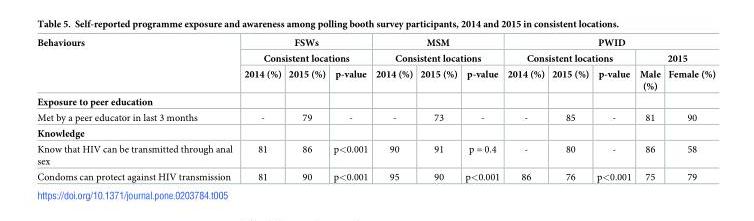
<table><thead><tr><td rowspan="3">Behaviours</td><td rowspan="2" colspan="3">FSWs Consistent locations</td><td rowspan="2" colspan="3">MSM Consistent locations</td><td colspan="5">PWID</td></tr><tr><td colspan="3">Consistent locations</td><td colspan="2">2015</td></tr><tr><td>2014 (%)</td><td>2015 (%)</td><td>p-value</td><td>2014 (%)</td><td>2015 (%)</td><td>p-value</td><td>2014 (%)</td><td>2015 (%)</td><td>p-value</td><td>Male (%)</td><td>Female (%)</td></tr></thead><tbody><tr><td colspan="12">Exposure to peer education</td></tr><tr><td>Met by a peer educator in last 3 months</td><td>-</td><td>79</td><td>-</td><td>-</td><td>73</td><td>-</td><td>-</td><td>85</td><td>-</td><td>81</td><td>90</td></tr><tr><td colspan="12">Knowledge</td></tr><tr><td>Know that HIV can be transmitted through anal sex</td><td>81</td><td>86</td><td>p&lt;0.001</td><td>90</td><td>91</td><td>p = 0.4</td><td>-</td><td>80</td><td>-</td><td>86</td><td>58</td></tr><tr><td>Condoms can protect against HIV transmission</td><td>81</td><td>90</td><td>p&lt;0.001</td><td>95</td><td>90</td><td>p&lt;0.001</td><td>86</td><td>76</td><td>p&lt;0.001</td><td>75</td><td>79</td></tr></tbody></table>